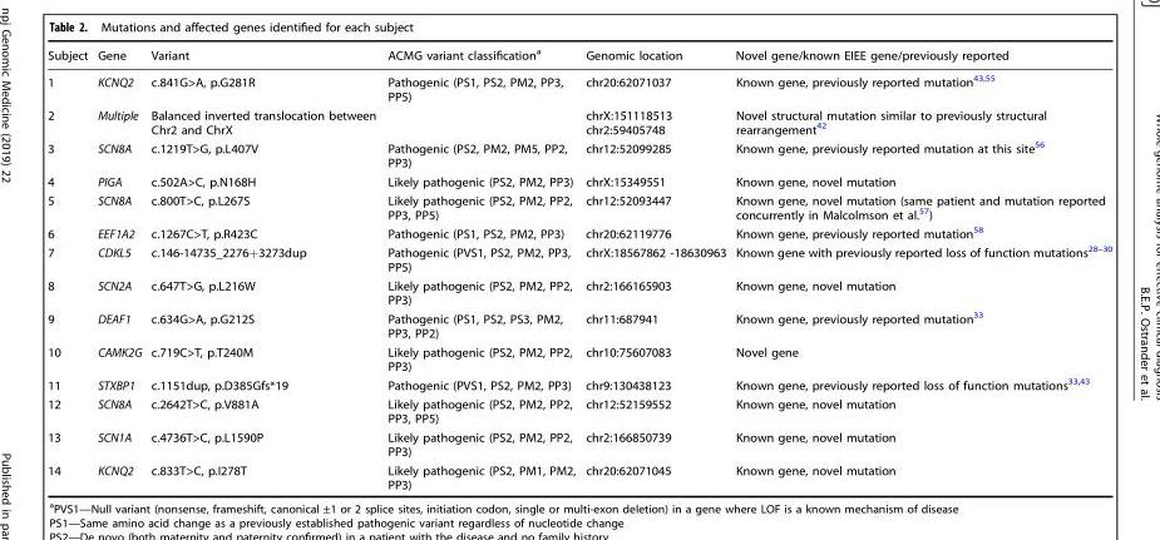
<table><thead><tr><td>Subject</td><td>Gene</td><td>Variant</td><td>ACMG variant classification<sup>a</sup></td><td>Genomic location</td><td>Novel gene/known EIEE gene/previously reported</td></tr></thead><tbody><tr><td>1</td><td>KCNQ2</td><td>c.841G&gt;A, p.G281R</td><td>Pathogenic (PS1, PS2, PM2, PP3, PP5)</td><td>chr20:62071037</td><td>Known gene, previously reported mutation<sup>43,55</sup></td></tr><tr><td>2</td><td>Multiple</td><td>Balanced inverted translocation between Chr2 and ChrX</td><td></td><td>chrX:151118513 chr2:59405748</td><td>Novel structural mutation similar to previously structural rearrangement<sup>42</sup></td></tr><tr><td>3</td><td>SCN8A</td><td>c.1219T&gt;G, p.L407V</td><td>Pathogenic (PS2, PM2, PM5, PP2, PP3)</td><td>chr12:52099285</td><td>Known gene, previously reported mutation at this site<sup>56</sup></td></tr><tr><td>4</td><td>PIGA</td><td>c.502A&gt;C, p.N168H</td><td>Likely pathogenic (PS2, PM2, PP3)</td><td>chrX:15349551</td><td>Known gene, novel mutation</td></tr><tr><td>5</td><td>SCN8A</td><td>c.800T&gt;C, p.L267S</td><td>Likely pathogenic (PS2, PM2, PP2, PP3, PP5)</td><td>chr12:52093447</td><td>Known gene, novel mutation (same patient and mutation reported concurrently in Malcolmson et al.<sup>57</sup>)</td></tr><tr><td>6</td><td>EEF1A2</td><td>c.1267C&gt;T, p.R423C</td><td>Pathogenic (PS1, PS2, PM2, PP3)</td><td>chr20:62119776</td><td>Known gene, previously reported mutation<sup>58</sup></td></tr><tr><td>7</td><td>CDKL5</td><td>c.146-14735_2276+3273dup</td><td>Pathogenic (PVS1, PS2, PM2, PP3, PP5)</td><td>chrX:18567862 -18630963</td><td>Known gene with previously reported loss of function mutations<sup>28–30</sup></td></tr><tr><td>8</td><td>SCN2A</td><td>c.647T&gt;G, p.L216W</td><td>Likely pathogenic (PS2, PM2, PP2, PP3)</td><td>chr2:166165903</td><td>Known gene, novel mutation</td></tr><tr><td>9</td><td>DEAF1</td><td>c.634G&gt;A, p.G212S</td><td>Pathogenic (PS1, PS2, PS3, PM2, PP3, PP2)</td><td>chr11:687941</td><td>Known gene, previously reported mutation<sup>33</sup></td></tr><tr><td>10</td><td>CAMK2G</td><td>c.719C&gt;T, p.T240M</td><td>Likely pathogenic (PS2, PM2, PP2, PP3)</td><td>chr10:75607083</td><td>Novel gene</td></tr><tr><td>11</td><td>STXBP1</td><td>c.1151dup, p.D385Gfs*19</td><td>Pathogenic (PVS1, PS2, PM2, PP3)</td><td>chr9:130438123</td><td>Known gene, previously reported loss of function mutations<sup>33,43</sup></td></tr><tr><td>12</td><td>SCN8A</td><td>c.2642T&gt;C, p.V881A</td><td>Likely pathogenic (PS2, PM2, PP2, PP3, PP5)</td><td>chr12:52159552</td><td>Known gene, novel mutation</td></tr><tr><td>13</td><td>SCN1A</td><td>c.4736T&gt;C, p.L1590P</td><td>Likely pathogenic (PS2, PM2, PP2, PP3)</td><td>chr2:166850739</td><td>Known gene, novel mutation</td></tr><tr><td>14</td><td>KCNQ2</td><td>c.833T&gt;C, p.I278T</td><td>Likely pathogenic (PS2, PM1, PM2, PP3)</td><td>chr20:62071045</td><td>Known gene, novel mutation</td></tr></tbody></table>